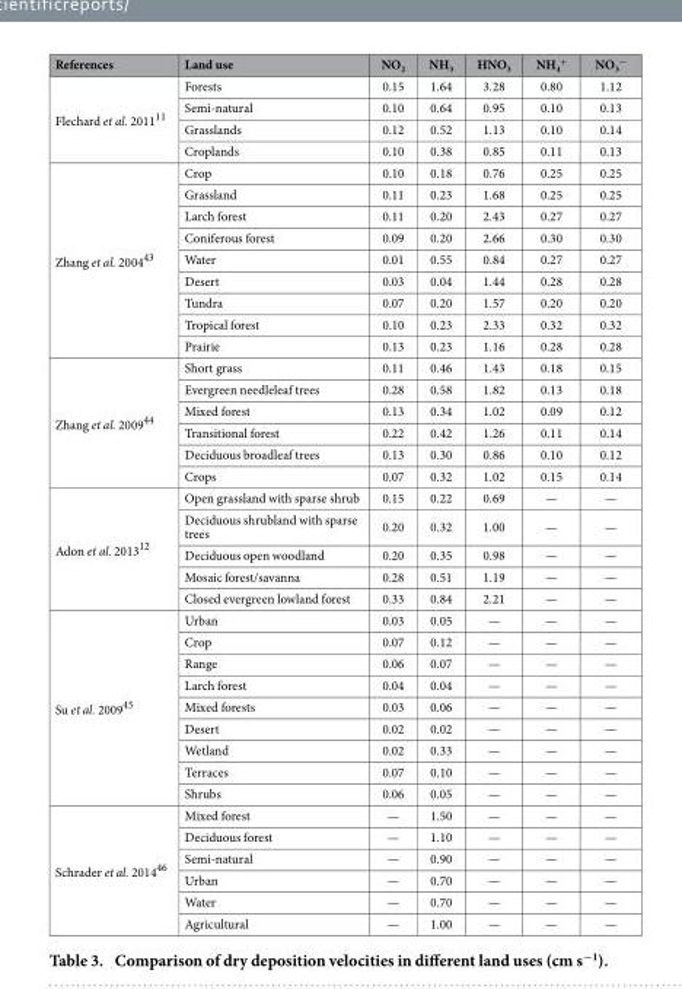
<table><thead><tr><td>References</td><td>Land use</td><td>NO<sub>2</sub></td><td>NH<sub>3</sub></td><td>HNO<sub>3</sub></td><td>NH<sub>4</sub> <sup>+</sup></td><td>NO<sub>3</sub> <sup>−</sup></td></tr></thead><tbody><tr><td rowspan="4">Flechard et al. 2011<sup>11</sup></td><td>Forests</td><td>0.15</td><td>1.64</td><td>3.28</td><td>0.80</td><td>1.12</td></tr><tr><td>Semi-natural</td><td>0.10</td><td>0.64</td><td>0.95</td><td>0.10</td><td>0.13</td></tr><tr><td>Grasslands</td><td>0.12</td><td>0.52</td><td>1.13</td><td>0.10</td><td>0.14</td></tr><tr><td>Croplands</td><td>0.10</td><td>0.38</td><td>0.85</td><td>0.11</td><td>0.13</td></tr><tr><td rowspan="9">Zhang et al. 2004<sup>43</sup></td><td>Crop</td><td>0.10</td><td>0.18</td><td>0.76</td><td>0.25</td><td>0.25</td></tr><tr><td>Grassland</td><td>0.11</td><td>0.23</td><td>1.68</td><td>0.25</td><td>0.25</td></tr><tr><td>Larch forest</td><td>0.11</td><td>0.20</td><td>2.43</td><td>0.27</td><td>0.27</td></tr><tr><td>Coniferous forest</td><td>0.09</td><td>0.20</td><td>2.66</td><td>0.30</td><td>0.30</td></tr><tr><td>Water</td><td>0.01</td><td>0.55</td><td>0.84</td><td>0.27</td><td>0.27</td></tr><tr><td>Desert</td><td>0.03</td><td>0.04</td><td>1.44</td><td>0.28</td><td>0.28</td></tr><tr><td>Tundra</td><td>0.07</td><td>0.20</td><td>1.57</td><td>0.20</td><td>0.20</td></tr><tr><td>Tropical forest</td><td>0.10</td><td>0.23</td><td>2.33</td><td>0.32</td><td>0.32</td></tr><tr><td>Prairie</td><td>0.13</td><td>0.23</td><td>1.16</td><td>0.28</td><td>0.28</td></tr><tr><td rowspan="6">Zhang et al. 2009<sup>44</sup></td><td>Short grass</td><td>0.11</td><td>0.46</td><td>1.43</td><td>0.18</td><td>0.15</td></tr><tr><td>Evergreen needleleaf trees</td><td>0.28</td><td>0.58</td><td>1.82</td><td>0.13</td><td>0.18</td></tr><tr><td>Mixed forest</td><td>0.13</td><td>0.34</td><td>1.02</td><td>0.09</td><td>0.12</td></tr><tr><td>Transitional forest</td><td>0.22</td><td>0.42</td><td>1.26</td><td>0.11</td><td>0.14</td></tr><tr><td>Deciduous broadleaf trees</td><td>0.13</td><td>0.30</td><td>0.86</td><td>0.10</td><td>0.12</td></tr><tr><td>Crops</td><td>0.07</td><td>0.32</td><td>1.02</td><td>0.15</td><td>0.14</td></tr><tr><td rowspan="5">Adon et al. 2013<sup>12</sup></td><td>Open grassland with sparse shrub</td><td>0.15</td><td>0.22</td><td>0.69</td><td>—</td><td>—</td></tr><tr><td>Deciduous shrubland with sparse trees</td><td>0.20</td><td>0.32</td><td>1.00</td><td>—</td><td>—</td></tr><tr><td>Deciduous open woodland</td><td>0.20</td><td>0.35</td><td>0.98</td><td>—</td><td>—</td></tr><tr><td>Mosaic forest/savanna</td><td>0.28</td><td>0.51</td><td>1.19</td><td>—</td><td>—</td></tr><tr><td>Closed evergreen lowland forest</td><td>0.33</td><td>0.84</td><td>2.21</td><td>—</td><td>—</td></tr><tr><td rowspan="9">Su et al. 2009<sup>45</sup></td><td>Urban</td><td>0.03</td><td>0.05</td><td>—</td><td>—</td><td>—</td></tr><tr><td>Crop</td><td>0.07</td><td>0.12</td><td>—</td><td>—</td><td>—</td></tr><tr><td>Range</td><td>0.06</td><td>0.07</td><td>—</td><td>—</td><td>—</td></tr><tr><td>Larch forest</td><td>0.04</td><td>0.04</td><td>—</td><td>—</td><td>—</td></tr><tr><td>Mixed forests</td><td>0.03</td><td>0.06</td><td>—</td><td>—</td><td>—</td></tr><tr><td>Desert</td><td>0.02</td><td>0.02</td><td>—</td><td>—</td><td>—</td></tr><tr><td>Wetland</td><td>0.02</td><td>0.33</td><td>—</td><td>—</td><td>—</td></tr><tr><td>Terraces</td><td>0.07</td><td>0.10</td><td>—</td><td>—</td><td>—</td></tr><tr><td>Shrubs</td><td>0.06</td><td>0.05</td><td>—</td><td>—</td><td>—</td></tr><tr><td rowspan="6">Schrader et al. 2014<sup>46</sup></td><td>Mixed forest</td><td>—</td><td>1.50</td><td>—</td><td>—</td><td>—</td></tr><tr><td>Deciduous forest</td><td>—</td><td>1.10</td><td>—</td><td>—</td><td>—</td></tr><tr><td>Semi-natural</td><td>—</td><td>0.90</td><td>—</td><td>—</td><td>—</td></tr><tr><td>Urban</td><td>—</td><td>0.70</td><td>—</td><td>—</td><td>—</td></tr><tr><td>Water</td><td>—</td><td>0.70</td><td>—</td><td>—</td><td>—</td></tr><tr><td>Agricultural</td><td>—</td><td>1.00</td><td>—</td><td>—</td><td>—</td></tr></tbody></table>